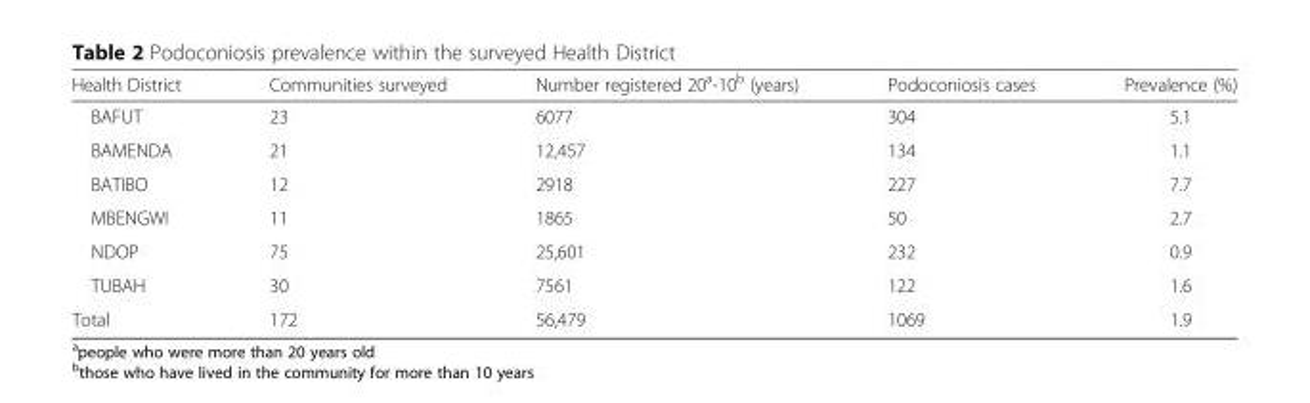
<table><thead><tr><td>Health District</td><td>Communities surveyed</td><td>Number registered 20<sup>a</sup>-10<sup>b</sup> (years)</td><td>Podoconiosis cases</td><td>Prevalence (%)</td></tr></thead><tbody><tr><td>BAFUT</td><td>23</td><td>6077</td><td>304</td><td>5.1</td></tr><tr><td>BAMENDA</td><td>21</td><td>12,457</td><td>134</td><td>1.1</td></tr><tr><td>BATIBO</td><td>12</td><td>2918</td><td>227</td><td>7.7</td></tr><tr><td>MBENGWI</td><td>11</td><td>1865</td><td>50</td><td>2.7</td></tr><tr><td>NDOP</td><td>75</td><td>25,601</td><td>232</td><td>0.9</td></tr><tr><td>TUBAH</td><td>30</td><td>7561</td><td>122</td><td>1.6</td></tr><tr><td>Total</td><td>172</td><td>56,479</td><td>1069</td><td>1.9</td></tr></tbody></table>